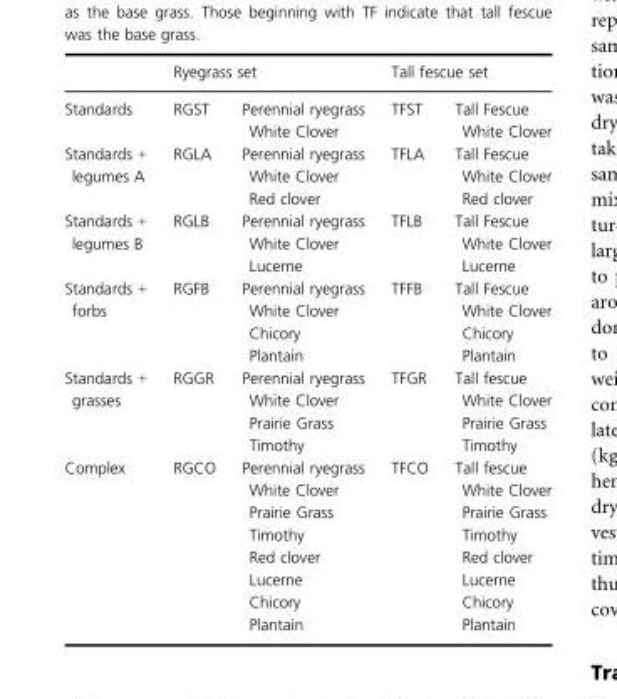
<table><thead><tr><td rowspan="2">Standards</td><td colspan="2">Ryegrass set</td><td colspan="2">Tall fescue set</td></tr><tr><td>RGST</td><td>Perennial ryegrass White Clover</td><td>TFST</td><td>Tall Fescue White Clover</td></tr></thead><tbody><tr><td>Standards + legumes A</td><td>RGLA</td><td>Perennial ryegrass White Clover Red clover</td><td>TFLA</td><td>Tall Fescue White Clover Red clover</td></tr><tr><td>Standards + legumes B</td><td>RGLB</td><td>Perennial ryegrass White Clover Lucerne</td><td>TFLB</td><td>Tall Fescue White Clover Lucerne</td></tr><tr><td>Standards + forbs</td><td>RGFB</td><td>Perennial ryegrass White Clover Chicory Plantain</td><td>TFFB</td><td>Tall Fescue White Clover Chicory Plantain</td></tr><tr><td>Standards + grasses</td><td>RGGR</td><td>Perennial ryegrass White Clover Prairie Grass Timothy</td><td>TFGR</td><td>Tall fescue White Clover Prairie Grass Timothy</td></tr><tr><td>Complex</td><td>RGCO</td><td>Perennial ryegrass White Clover Prairie Grass Timothy Red clover Lucerne Chicory Plantain</td><td>TFCO</td><td>Tall fescue White Clover Prairie Grass Timothy Red clover Lucerne Chicory Plantain</td></tr></tbody></table>